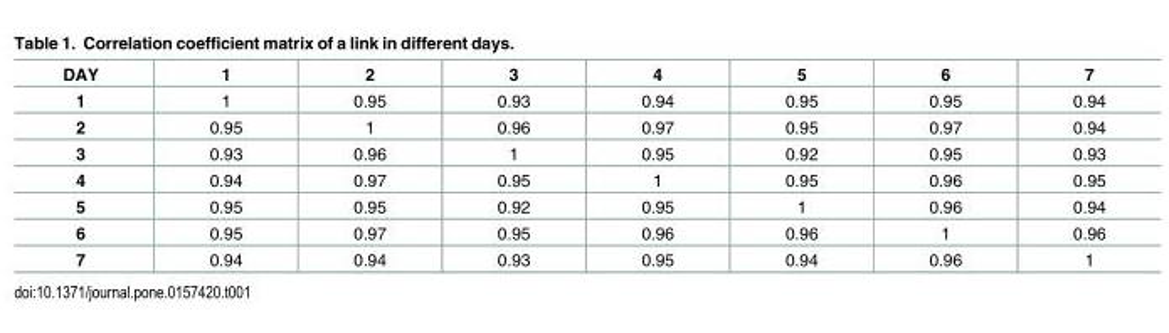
<table><tbody><tr><td>DAY</td><td>1</td><td>2</td><td>3</td><td>4</td><td>5</td><td>6</td><td>7</td></tr><tr><td>1</td><td>1</td><td>0.95</td><td>0.93</td><td>0.94</td><td>0.95</td><td>0.95</td><td>0.94</td></tr><tr><td>2</td><td>0.95</td><td>1</td><td>0.96</td><td>0.97</td><td>0.95</td><td>0.97</td><td>0.94</td></tr><tr><td>3</td><td>0.93</td><td>0.96</td><td>1</td><td>0.95</td><td>0.92</td><td>0.95</td><td>0.93</td></tr><tr><td>4</td><td>0.94</td><td>0.97</td><td>0.95</td><td>1</td><td>0.95</td><td>0.96</td><td>0.95</td></tr><tr><td>5</td><td>0.95</td><td>0.95</td><td>0.92</td><td>0.95</td><td>1</td><td>0.96</td><td>0.94</td></tr><tr><td>6</td><td>0.95</td><td>0.97</td><td>0.95</td><td>0.96</td><td>0.96</td><td>1</td><td>0.96</td></tr><tr><td>7</td><td>0.94</td><td>0.94</td><td>0.93</td><td>0.95</td><td>0.94</td><td>0.96</td><td>1</td></tr></tbody></table>